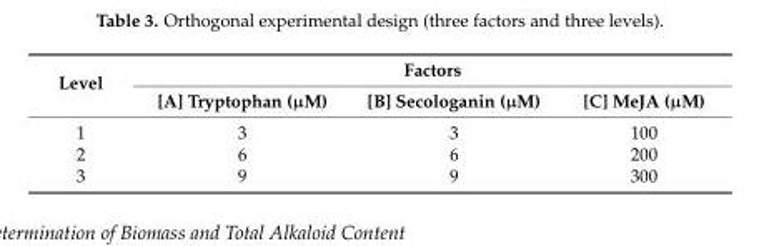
<table><thead><tr><td rowspan="2">Level</td><td colspan="3">Factors</td></tr><tr><td>[A] Tryptophan (µM)</td><td>[B] Secologanin (µM)</td><td>[C] MeJA (µM)</td></tr></thead><tbody><tr><td>1</td><td>3</td><td>3</td><td>100</td></tr><tr><td>2</td><td>6</td><td>6</td><td>200</td></tr><tr><td>3</td><td>9</td><td>9</td><td>300</td></tr></tbody></table>